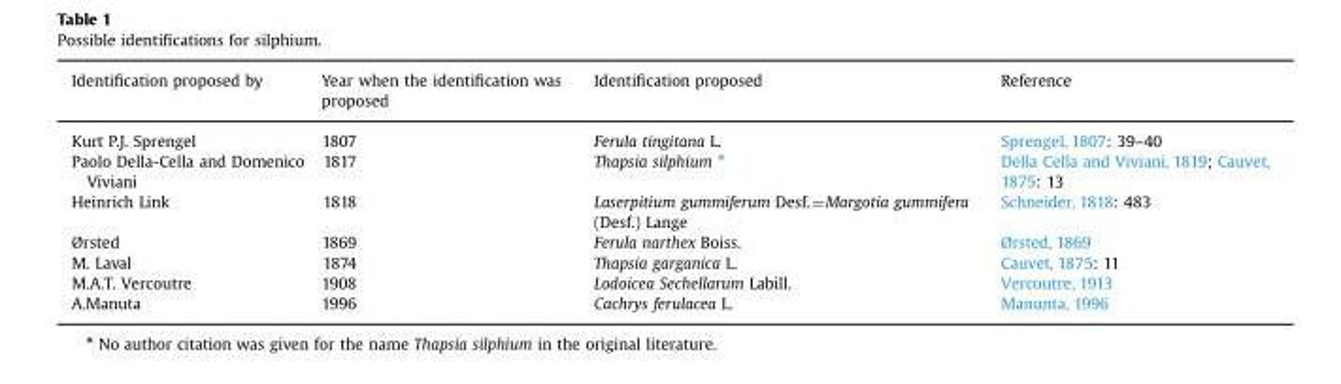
<table><thead><tr><td>Identification proposed by</td><td>Year when the identification was proposed</td><td>Identification proposed</td><td>Reference</td></tr></thead><tbody><tr><td>Kurt P.J. Sprengel</td><td>1807</td><td>Ferula tingitana L.</td><td>Sprengel, 1807: 39–40</td></tr><tr><td>Paolo Della-Cella and Domenico Viviani</td><td>1817</td><td>Thapsia silphium ⁎</td><td>Della Cella and Viviani, 1819; Cauvet, 1875: 13</td></tr><tr><td>Heinrich Link</td><td>1818</td><td>Laserpitium gummiferum Desf.=Margotia gummifera (Desf.) Lange</td><td>Schneider, 1818: 483</td></tr><tr><td>Ørsted</td><td>1869</td><td>Ferula narthex Boiss.</td><td>Ørsted, 1869</td></tr><tr><td>M. Laval</td><td>1874</td><td>Thapsia garganica L.</td><td>Cauvet, 1875: 11</td></tr><tr><td>M.A.T. Vercoutre</td><td>1908</td><td>Lodoicea Sechellarum Labill.</td><td>Vercoutre, 1913</td></tr><tr><td>A.Manuta</td><td>1996</td><td>Cachrys ferulacea L.</td><td>Manunta, 1996</td></tr></tbody></table>